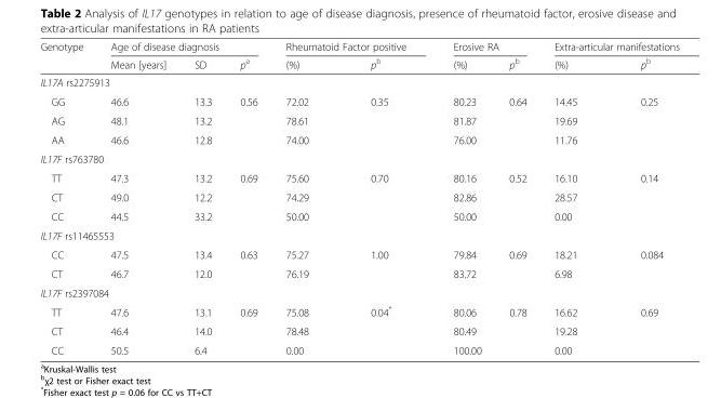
<table><thead><tr><td rowspan="2">Genotype</td><td colspan="3">Age of disease diagnosis</td><td colspan="2">Rheumatoid Factor positive</td><td colspan="2">Erosive RA</td><td colspan="2">Extra-articular manifestations</td></tr><tr><td>Mean [years]</td><td>SD</td><td>p<sup>a</sup></td><td>(%)</td><td>p<sup>b</sup></td><td>(%)</td><td>p<sup>b</sup></td><td>(%)</td><td>p<sup>b</sup></td></tr></thead><tbody><tr><td colspan="10">IL17A rs2275913</td></tr><tr><td>GG</td><td>46.6</td><td>13.3</td><td rowspan="3">0.56</td><td>72.02</td><td rowspan="3">0.35</td><td>80.23</td><td rowspan="3">0.64</td><td>14.45</td><td rowspan="3">0.25</td></tr><tr><td>AG</td><td>48.1</td><td>13.2</td><td>78.61</td><td>81.87</td><td>19.69</td></tr><tr><td>AA</td><td>46.6</td><td>12.8</td><td>74.00</td><td>76.00</td><td>11.76</td></tr><tr><td colspan="10">IL17F rs763780</td></tr><tr><td>TT</td><td>47.3</td><td>13.2</td><td rowspan="3">0.69</td><td>75.60</td><td rowspan="3">0.70</td><td>80.16</td><td rowspan="3">0.52</td><td>16.10</td><td rowspan="3">0.14</td></tr><tr><td>CT</td><td>49.0</td><td>12.2</td><td>74.29</td><td>82.86</td><td>28.57</td></tr><tr><td>CC</td><td>44.5</td><td>33.2</td><td>50.00</td><td>50.00</td><td>0.00</td></tr><tr><td colspan="10">IL17F rs11465553</td></tr><tr><td>CC</td><td>47.5</td><td>13.4</td><td rowspan="2">0.63</td><td>75.27</td><td rowspan="2">1.00</td><td>79.84</td><td rowspan="2">0.69</td><td>18.21</td><td rowspan="2">0.084</td></tr><tr><td>CT</td><td>46.7</td><td>12.0</td><td>76.19</td><td>83.72</td><td>6.98</td></tr><tr><td colspan="10">IL17F rs2397084</td></tr><tr><td>TT</td><td>47.6</td><td>13.1</td><td rowspan="3">0.69</td><td>75.08</td><td rowspan="3">0.04*</td><td>80.06</td><td rowspan="3">0.78</td><td>16.62</td><td rowspan="3">0.69</td></tr><tr><td>CT</td><td>46.4</td><td>14.0</td><td>78.48</td><td>80.49</td><td>19.28</td></tr><tr><td>CC</td><td>50.5</td><td>6.4</td><td>0.00</td><td>100.00</td><td>0.00</td></tr></tbody></table>